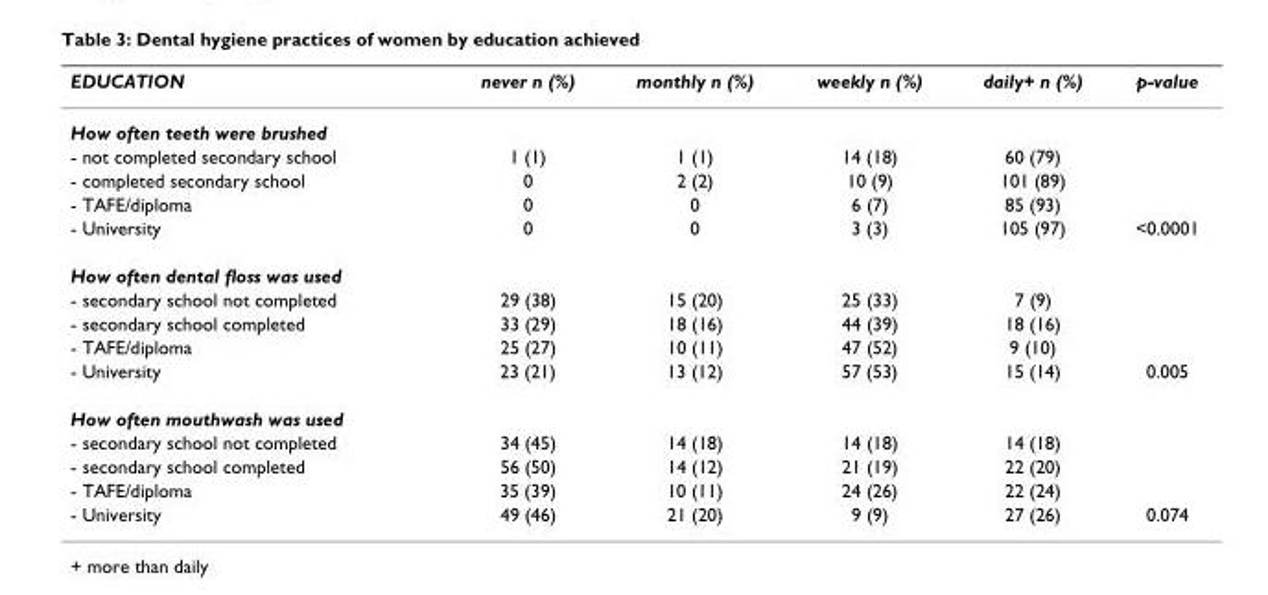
<table><thead><tr><td>EDUCATION</td><td>never n (%)</td><td>monthly n (%)</td><td>weekly n (%)</td><td>daily+ n (%)</td><td>p-value</td></tr></thead><tbody><tr><td colspan="6">How often teeth were brushed</td></tr><tr><td>- not completed secondary school</td><td>1 (1)</td><td>1 (1)</td><td>14 (18)</td><td>60 (79)</td><td></td></tr><tr><td>- completed secondary school</td><td>0</td><td>2 (2)</td><td>10 (9)</td><td>101 (89)</td><td></td></tr><tr><td>- TAFE/diploma</td><td>0</td><td>0</td><td>6 (7)</td><td>85 (93)</td><td></td></tr><tr><td>- University</td><td>0</td><td>0</td><td>3 (3)</td><td>105 (97)</td><td>&lt;0.0001</td></tr><tr><td colspan="6">How often dental floss was used</td></tr><tr><td>- secondary school not completed</td><td>29 (38)</td><td>15 (20)</td><td>25 (33)</td><td>7 (9)</td><td></td></tr><tr><td>- secondary school completed</td><td>33 (29)</td><td>18 (16)</td><td>44 (39)</td><td>18 (16)</td><td></td></tr><tr><td>- TAFE/diploma</td><td>25 (27)</td><td>10 (11)</td><td>47 (52)</td><td>9 (10)</td><td></td></tr><tr><td>- University</td><td>23 (21)</td><td>13 (12)</td><td>57 (53)</td><td>15 (14)</td><td>0.005</td></tr><tr><td colspan="6">How often mouthwash was used</td></tr><tr><td>- secondary school not completed</td><td>34 (45)</td><td>14 (18)</td><td>14 (18)</td><td>14 (18)</td><td></td></tr><tr><td>- secondary school completed</td><td>56 (50)</td><td>14 (12)</td><td>21 (19)</td><td>22 (20)</td><td></td></tr><tr><td>- TAFE/diploma</td><td>35 (39)</td><td>10 (11)</td><td>24 (26)</td><td>22 (24)</td><td></td></tr><tr><td>- University</td><td>49 (46)</td><td>21 (20)</td><td>9 (9)</td><td>27 (26)</td><td>0.074</td></tr></tbody></table>